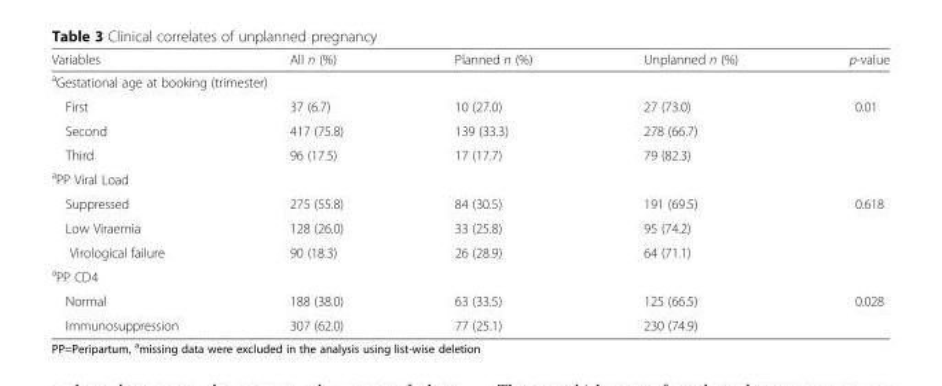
<table><thead><tr><td>Variables</td><td>All n (%)</td><td>Planned n (%)</td><td>Unplanned n (%)</td><td>p-value</td></tr></thead><tbody><tr><td colspan="5"><sup>a</sup>Gestational age at booking (trimester)</td></tr><tr><td>First</td><td>37 (6.7)</td><td>10 (27.0)</td><td>27 (73.0)</td><td>0.01</td></tr><tr><td>Second</td><td>417 (75.8)</td><td>139 (33.3)</td><td>278 (66.7)</td><td></td></tr><tr><td>Third</td><td>96 (17.5)</td><td>17 (17.7)</td><td>79 (82.3)</td><td></td></tr><tr><td colspan="5"><sup>a</sup>PP Viral Load</td></tr><tr><td>Suppressed</td><td>275 (55.8)</td><td>84 (30.5)</td><td>191 (69.5)</td><td>0.618</td></tr><tr><td>Low Viraemia</td><td>128 (26.0)</td><td>33 (25.8)</td><td>95 (74.2)</td><td></td></tr><tr><td>Virological failure</td><td>90 (18.3)</td><td>26 (28.9)</td><td>64 (71.1)</td><td></td></tr><tr><td colspan="5"><sup>a</sup>PP CD4</td></tr><tr><td>Normal</td><td>188 (38.0)</td><td>63 (33.5)</td><td>125 (66.5)</td><td>0.028</td></tr><tr><td>Immunosuppression</td><td>307 (62.0)</td><td>77 (25.1)</td><td>230 (74.9)</td><td></td></tr></tbody></table>